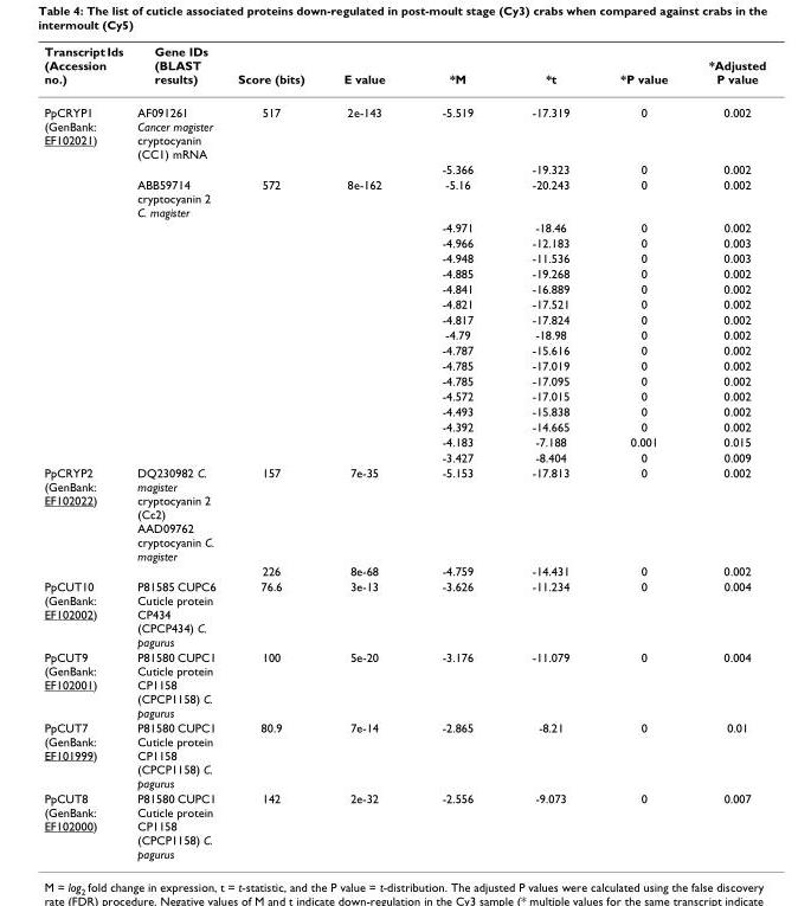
<table><thead><tr><td>Transcript Ids (Accession no.)</td><td>Gene IDs (BLAST results)</td><td>Score (bits)</td><td>E value</td><td>*M</td><td>*t</td><td>*P value</td><td>*Adjusted P value</td></tr></thead><tbody><tr><td rowspan="19">PpCRYP1 (GenBank: EF102021)</td><td>AF091261 Cancer magister cryptocyanin (CC1) mRNA</td><td>517</td><td>2e-143</td><td>-5.519</td><td>-17.319</td><td>0</td><td>0.002</td></tr><tr><td></td><td></td><td></td><td>-5.366</td><td>-19.323</td><td>0</td><td>0.002</td></tr><tr><td>ABB59714 cryptocyanin 2 C. magister</td><td>572</td><td>8e-162</td><td>-5.16</td><td>-20.243</td><td>0</td><td>0.002</td></tr><tr><td></td><td></td><td></td><td>-4.971</td><td>-18.46</td><td>0</td><td>0.002</td></tr><tr><td></td><td></td><td></td><td>-4.966</td><td>-12.183</td><td>0</td><td>0.003</td></tr><tr><td></td><td></td><td></td><td>-4.948</td><td>-11.536</td><td>0</td><td>0.003</td></tr><tr><td></td><td></td><td></td><td>-4.885</td><td>-19.268</td><td>0</td><td>0.002</td></tr><tr><td></td><td></td><td></td><td>-4.841</td><td>-16.889</td><td>0</td><td>0.002</td></tr><tr><td></td><td></td><td></td><td>-4.821</td><td>-17.521</td><td>0</td><td>0.002</td></tr><tr><td></td><td></td><td></td><td>-4.817</td><td>-17.824</td><td>0</td><td>0.002</td></tr><tr><td></td><td></td><td></td><td>-4.79</td><td>-18.98</td><td>0</td><td>0.002</td></tr><tr><td></td><td></td><td></td><td>-4.787</td><td>-15.616</td><td>0</td><td>0.002</td></tr><tr><td></td><td></td><td></td><td>-4.785</td><td>-17.019</td><td>0</td><td>0.002</td></tr><tr><td></td><td></td><td></td><td>-4.785</td><td>-17.095</td><td>0</td><td>0.002</td></tr><tr><td></td><td></td><td></td><td>-4.572</td><td>-17.015</td><td>0</td><td>0.002</td></tr><tr><td></td><td></td><td></td><td>-4.493</td><td>-15.838</td><td>0</td><td>0.002</td></tr><tr><td></td><td></td><td></td><td>-4.392</td><td>-14.665</td><td>0</td><td>0.002</td></tr><tr><td></td><td></td><td></td><td>-4.183</td><td>-7.188</td><td>0.001</td><td>0.015</td></tr><tr><td></td><td></td><td></td><td>-3.427</td><td>-8.404</td><td>0</td><td>0.009</td></tr><tr><td rowspan="2">PpCRYP2 (GenBank: EF102022)</td><td>DQ230982 C. magister cryptocyanin 2 (Cc2) AAD09762 cryptocyanin C. magister</td><td>157</td><td>7e-35</td><td>-5.153</td><td>-17.813</td><td>0</td><td>0.002</td></tr><tr><td></td><td>226</td><td>8e-68</td><td>-4.759</td><td>-14.431</td><td>0</td><td>0.002</td></tr><tr><td>PpCUT10 (GenBank: EF102002)</td><td>P81585 CUPC6 Cuticle protein CP434 (CPCP434) C. pagurus</td><td>76.6</td><td>3e-13</td><td>-3.626</td><td>-11.234</td><td>0</td><td>0.004</td></tr><tr><td>PpCUT9 (GenBank: EF102001)</td><td>P81580 CUPC1 Cuticle protein CP1158 (CPCP1158) C. pagurus</td><td>100</td><td>5e-20</td><td>-3.176</td><td>-11.079</td><td>0</td><td>0.004</td></tr><tr><td>PpCUT7 (GenBank: EF101999)</td><td>P81580 CUPC1 Cuticle protein CP1158 (CPCP1158) C. pagurus</td><td>80.9</td><td>7e-14</td><td>-2.865</td><td>-8.21</td><td>0</td><td>0.01</td></tr><tr><td>PpCUT8 (GenBank: EF102000)</td><td>P81580 CUPC1 Cuticle protein CP1158 (CPCP1158) C. pagurus</td><td>142</td><td>2e-32</td><td>-2.556</td><td>-9.073</td><td>0</td><td>0.007</td></tr></tbody></table>